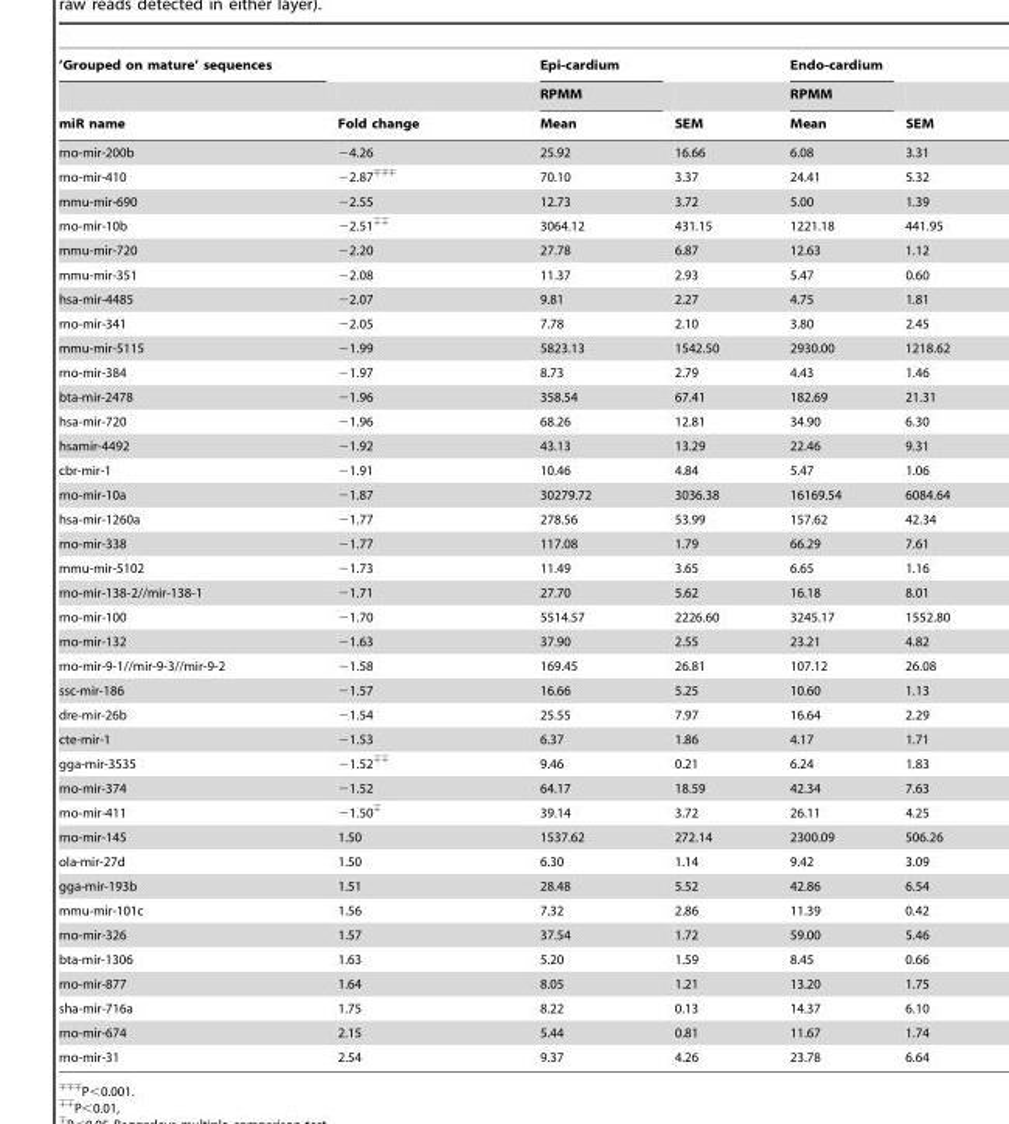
<table><thead><tr><td rowspan="3">’Grouped on mature’ sequences miR name</td><td rowspan="3">Fold change</td><td rowspan="3">Epi-cardium RPMM Mean</td><td rowspan="3">SEM</td><td rowspan="3">Endo-cardium RPMM Mean</td><td rowspan="3">SEM</td></tr><tr></tr><tr></tr></thead><tbody><tr><td>rno-mir-200b</td><td>−4.26</td><td>25.92</td><td>16.66</td><td>6.08</td><td>3.31</td></tr><tr><td>rno-mir-410</td><td>22.87%%%</td><td>70.10</td><td>3.37</td><td>24.41</td><td>5.32</td></tr><tr><td>mmu-mir-690</td><td>−2.55</td><td>12.73</td><td>3.72</td><td>5.00</td><td>1.39</td></tr><tr><td>rno-mir-10b</td><td>22.51%%</td><td>3064.12</td><td>431.15</td><td>1221.18</td><td>441.95</td></tr><tr><td>mmu-mir-720</td><td>−2.20</td><td>27.78</td><td>6.87</td><td>12.63</td><td>1.12</td></tr><tr><td>mmu-mir-351</td><td>−2.08</td><td>11.37</td><td>2.93</td><td>5.47</td><td>0.60</td></tr><tr><td>hsa-mir-4485</td><td>−2.07</td><td>9.81</td><td>2.27</td><td>4.75</td><td>1.81</td></tr><tr><td>rno-mir-341</td><td>−2.05</td><td>7.78</td><td>2.10</td><td>3.80</td><td>2.45</td></tr><tr><td>mmu-mir-5115</td><td>−1.99</td><td>5823.13</td><td>1542.50</td><td>2930.00</td><td>1218.62</td></tr><tr><td>rno-mir-384</td><td>−1.97</td><td>8.73</td><td>2.79</td><td>4.43</td><td>1.46</td></tr><tr><td>bta-mir-2478</td><td>−1.96</td><td>358.54</td><td>67.41</td><td>182.69</td><td>21.31</td></tr><tr><td>hsa-mir-720</td><td>−1.96</td><td>68.26</td><td>12.81</td><td>34.90</td><td>6.30</td></tr><tr><td>hsamir-4492</td><td>−1.92</td><td>43.13</td><td>13.29</td><td>22.46</td><td>9.31</td></tr><tr><td>cbr-mir-1</td><td>−1.91</td><td>10.46</td><td>4.84</td><td>5.47</td><td>1.06</td></tr><tr><td>rno-mir-10a</td><td>−1.87</td><td>30279.72</td><td>3036.38</td><td>16169.54</td><td>6084.64</td></tr><tr><td>hsa-mir-1260a</td><td>−1.77</td><td>278.56</td><td>53.99</td><td>157.62</td><td>42.34</td></tr><tr><td>rno-mir-338</td><td>−1.77</td><td>117.08</td><td>1.79</td><td>66.29</td><td>7.61</td></tr><tr><td>mmu-mir-5102</td><td>−1.73</td><td>11.49</td><td>3.65</td><td>6.65</td><td>1.16</td></tr><tr><td>rno-mir-138-2//mir-138-1</td><td>−1.71</td><td>27.70</td><td>5.62</td><td>16.18</td><td>8.01</td></tr><tr><td>rno-mir-100</td><td>−1.70</td><td>5514.57</td><td>2226.60</td><td>3245.17</td><td>1552.80</td></tr><tr><td>rno-mir-132</td><td>−1.63</td><td>37.90</td><td>2.55</td><td>23.21</td><td>4.82</td></tr><tr><td>rno-mir-9-1//mir-9-3//mir-9-2</td><td>−1.58</td><td>169.45</td><td>26.81</td><td>107.12</td><td>26.08</td></tr><tr><td>ssc-mir-186</td><td>−1.57</td><td>16.66</td><td>5.25</td><td>10.60</td><td>1.13</td></tr><tr><td>dre-mir-26b</td><td>−1.54</td><td>25.55</td><td>7.97</td><td>16.64</td><td>2.29</td></tr><tr><td>cte-mir-1</td><td>−1.53</td><td>6.37</td><td>1.86</td><td>4.17</td><td>1.71</td></tr><tr><td>gga-mir-3535</td><td>21.52%%</td><td>9.46</td><td>0.21</td><td>6.24</td><td>1.83</td></tr><tr><td>rno-mir-374</td><td>−1.52</td><td>64.17</td><td>18.59</td><td>42.34</td><td>7.63</td></tr><tr><td>rno-mir-411</td><td>21.50%</td><td>39.14</td><td>3.72</td><td>26.11</td><td>4.25</td></tr><tr><td>rno-mir-145</td><td>1.50</td><td>1537.62</td><td>272.14</td><td>2300.09</td><td>506.26</td></tr><tr><td>ola-mir-27d</td><td>1.50</td><td>6.30</td><td>1.14</td><td>9.42</td><td>3.09</td></tr><tr><td>gga-mir-193b</td><td>1.51</td><td>28.48</td><td>5.52</td><td>42.86</td><td>6.54</td></tr><tr><td>mmu-mir-101c</td><td>1.56</td><td>7.32</td><td>2.86</td><td>11.39</td><td>0.42</td></tr><tr><td>rno-mir-326</td><td>1.57</td><td>37.54</td><td>1.72</td><td>59.00</td><td>5.46</td></tr><tr><td>bta-mir-1306</td><td>1.63</td><td>5.20</td><td>1.59</td><td>8.45</td><td>0.66</td></tr><tr><td>rno-mir-877</td><td>1.64</td><td>8.05</td><td>1.21</td><td>13.20</td><td>1.75</td></tr><tr><td>sha-mir-716a</td><td>1.75</td><td>8.22</td><td>0.13</td><td>14.37</td><td>6.10</td></tr><tr><td>rno-mir-674</td><td>2.15</td><td>5.44</td><td>0.81</td><td>11.67</td><td>1.74</td></tr><tr><td>rno-mir-31</td><td>2.54</td><td>9.37</td><td>4.26</td><td>23.78</td><td>6.64</td></tr></tbody></table>